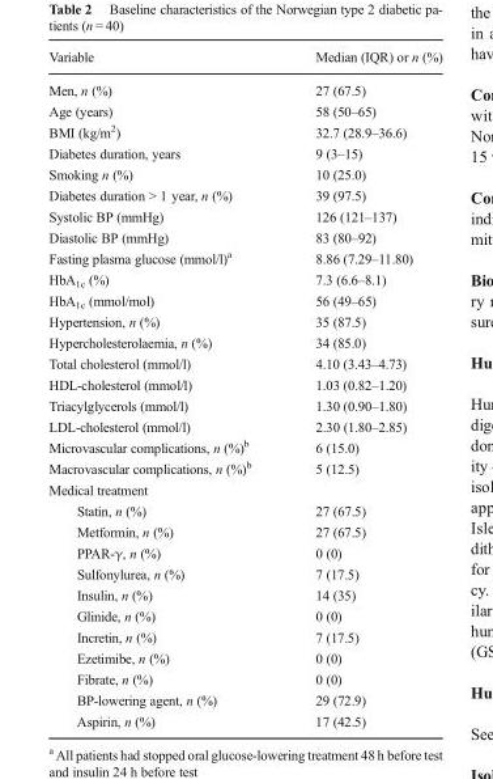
<table><thead><tr><td>Variable</td><td>Median (IQR) or n (%)</td></tr></thead><tbody><tr><td>Men, n (%)</td><td>27 (67.5)</td></tr><tr><td>Age (years)</td><td>58 (50–65)</td></tr><tr><td>BMI (kg/m<sup>2</sup>)</td><td>32.7 (28.9–36.6)</td></tr><tr><td>Diabetes duration, years</td><td>9 (3–15)</td></tr><tr><td>Smoking n (%)</td><td>10 (25.0)</td></tr><tr><td>Diabetes duration &gt; 1 year, n (%)</td><td>39 (97.5)</td></tr><tr><td>Systolic BP (mmHg)</td><td>126 (121–137)</td></tr><tr><td>Diastolic BP (mmHg)</td><td>83 (80–92)</td></tr><tr><td>Fasting plasma glucose (mmol/l)<sup>a</sup></td><td>8.86 (7.29–11.80)</td></tr><tr><td>HbA<sub>1c</sub> (%)</td><td>7.3 (6.6–8.1)</td></tr><tr><td>HbA<sub>1c</sub> (mmol/mol)</td><td>56 (49–65)</td></tr><tr><td>Hypertension, n (%)</td><td>35 (87.5)</td></tr><tr><td>Hypercholesterolaemia, n (%)</td><td>34 (85.0)</td></tr><tr><td>Total cholesterol (mmol/l)</td><td>4.10 (3.43–4.73)</td></tr><tr><td>HDL-cholesterol (mmol/l)</td><td>1.03 (0.82–1.20)</td></tr><tr><td>Triacylglycerols (mmol/l)</td><td>1.30 (0.90–1.80)</td></tr><tr><td>LDL-cholesterol (mmol/l)</td><td>2.30 (1.80–2.85)</td></tr><tr><td>Microvascular complications, n (%)<sup>b</sup></td><td>6 (15.0)</td></tr><tr><td>Macrovascular complications, n (%)<sup>b</sup></td><td>5 (12.5)</td></tr><tr><td colspan="2">Medical treatment</td></tr><tr><td>Statin, n (%)</td><td>27 (67.5)</td></tr><tr><td>Metformin, n (%)</td><td>27 (67.5)</td></tr><tr><td>PPAR-γ, n (%)</td><td>0 (0)</td></tr><tr><td>Sulfonylurea, n (%)</td><td>7 (17.5)</td></tr><tr><td>Insulin, n (%)</td><td>14 (35)</td></tr><tr><td>Glinide, n (%)</td><td>0 (0)</td></tr><tr><td>Incretin, n (%)</td><td>7 (17.5)</td></tr><tr><td>Ezetimibe, n (%)</td><td>0 (0)</td></tr><tr><td>Fibrate, n (%)</td><td>0 (0)</td></tr><tr><td>BP-lowering agent, n (%)</td><td>29 (72.9)</td></tr><tr><td>Aspirin, n (%)</td><td>17 (42.5)</td></tr></tbody></table>